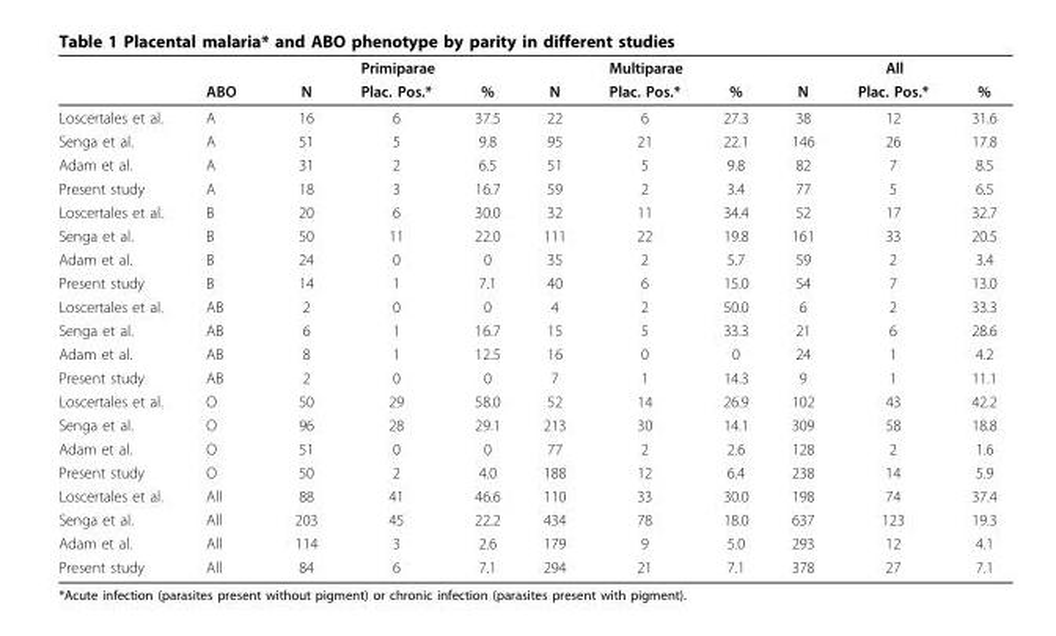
<table><thead><tr><td rowspan="2"></td><td rowspan="2">ABO</td><td colspan="3">Primiparae</td><td colspan="3">Multiparae</td><td colspan="3">All</td></tr><tr><td>N</td><td>Plac. Pos.*</td><td>%</td><td>N</td><td>Plac. Pos.*</td><td>%</td><td>N</td><td>Plac. Pos.*</td><td>%</td></tr></thead><tbody><tr><td>Loscertales et al.</td><td>A</td><td>16</td><td>6</td><td>37.5</td><td>22</td><td>6</td><td>27.3</td><td>38</td><td>12</td><td>31.6</td></tr><tr><td>Senga et al.</td><td>A</td><td>51</td><td>5</td><td>9.8</td><td>95</td><td>21</td><td>22.1</td><td>146</td><td>26</td><td>17.8</td></tr><tr><td>Adam et al.</td><td>A</td><td>31</td><td>2</td><td>6.5</td><td>51</td><td>5</td><td>9.8</td><td>82</td><td>7</td><td>8.5</td></tr><tr><td>Present study</td><td>A</td><td>18</td><td>3</td><td>16.7</td><td>59</td><td>2</td><td>3.4</td><td>77</td><td>5</td><td>6.5</td></tr><tr><td>Loscertales et al.</td><td>B</td><td>20</td><td>6</td><td>30.0</td><td>32</td><td>11</td><td>34.4</td><td>52</td><td>17</td><td>32.7</td></tr><tr><td>Senga et al.</td><td>B</td><td>50</td><td>11</td><td>22.0</td><td>111</td><td>22</td><td>19.8</td><td>161</td><td>33</td><td>20.5</td></tr><tr><td>Adam et al.</td><td>B</td><td>24</td><td>0</td><td>0</td><td>35</td><td>2</td><td>5.7</td><td>59</td><td>2</td><td>3.4</td></tr><tr><td>Present study</td><td>B</td><td>14</td><td>1</td><td>7.1</td><td>40</td><td>6</td><td>15.0</td><td>54</td><td>7</td><td>13.0</td></tr><tr><td>Loscertales et al.</td><td>AB</td><td>2</td><td>0</td><td>0</td><td>4</td><td>2</td><td>50.0</td><td>6</td><td>2</td><td>33.3</td></tr><tr><td>Senga et al.</td><td>AB</td><td>6</td><td>1</td><td>16.7</td><td>15</td><td>5</td><td>33.3</td><td>21</td><td>6</td><td>28.6</td></tr><tr><td>Adam et al.</td><td>AB</td><td>8</td><td>1</td><td>12.5</td><td>16</td><td>0</td><td>0</td><td>24</td><td>1</td><td>4.2</td></tr><tr><td>Present study</td><td>AB</td><td>2</td><td>0</td><td>0</td><td>7</td><td>1</td><td>14.3</td><td>9</td><td>1</td><td>11.1</td></tr><tr><td>Loscertales et al.</td><td>O</td><td>50</td><td>29</td><td>58.0</td><td>52</td><td>14</td><td>26.9</td><td>102</td><td>43</td><td>42.2</td></tr><tr><td>Senga et al.</td><td>O</td><td>96</td><td>28</td><td>29.1</td><td>213</td><td>30</td><td>14.1</td><td>309</td><td>58</td><td>18.8</td></tr><tr><td>Adam et al.</td><td>O</td><td>51</td><td>0</td><td>0</td><td>77</td><td>2</td><td>2.6</td><td>128</td><td>2</td><td>1.6</td></tr><tr><td>Present study</td><td>O</td><td>50</td><td>2</td><td>4.0</td><td>188</td><td>12</td><td>6.4</td><td>238</td><td>14</td><td>5.9</td></tr><tr><td>Loscertales et al.</td><td>All</td><td>88</td><td>41</td><td>46.6</td><td>110</td><td>33</td><td>30.0</td><td>198</td><td>74</td><td>37.4</td></tr><tr><td>Senga et al.</td><td>All</td><td>203</td><td>45</td><td>22.2</td><td>434</td><td>78</td><td>18.0</td><td>637</td><td>123</td><td>19.3</td></tr><tr><td>Adam et al.</td><td>All</td><td>114</td><td>3</td><td>2.6</td><td>179</td><td>9</td><td>5.0</td><td>293</td><td>12</td><td>4.1</td></tr><tr><td>Present study</td><td>All</td><td>84</td><td>6</td><td>7.1</td><td>294</td><td>21</td><td>7.1</td><td>378</td><td>27</td><td>7.1</td></tr></tbody></table>